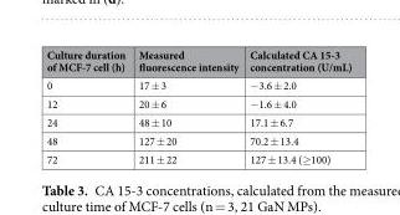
<table><thead><tr><td>Culture duration of MCF-7 cell (h)</td><td>Measured fluorescence intensity</td><td>Calculated CA 15-3 concentration (U/mL)</td></tr></thead><tbody><tr><td>0</td><td>17 ± 3</td><td>−3.6 ± 2.0</td></tr><tr><td>12</td><td>20 ± 6</td><td>−1.6 ± 4.0</td></tr><tr><td>24</td><td>48 ± 10</td><td>17.1 ± 6.7</td></tr><tr><td>48</td><td>127 ± 20</td><td>70.2 ± 13.4</td></tr><tr><td>72</td><td>211 ± 22</td><td>127 ± 13.4 (≥100)</td></tr></tbody></table>